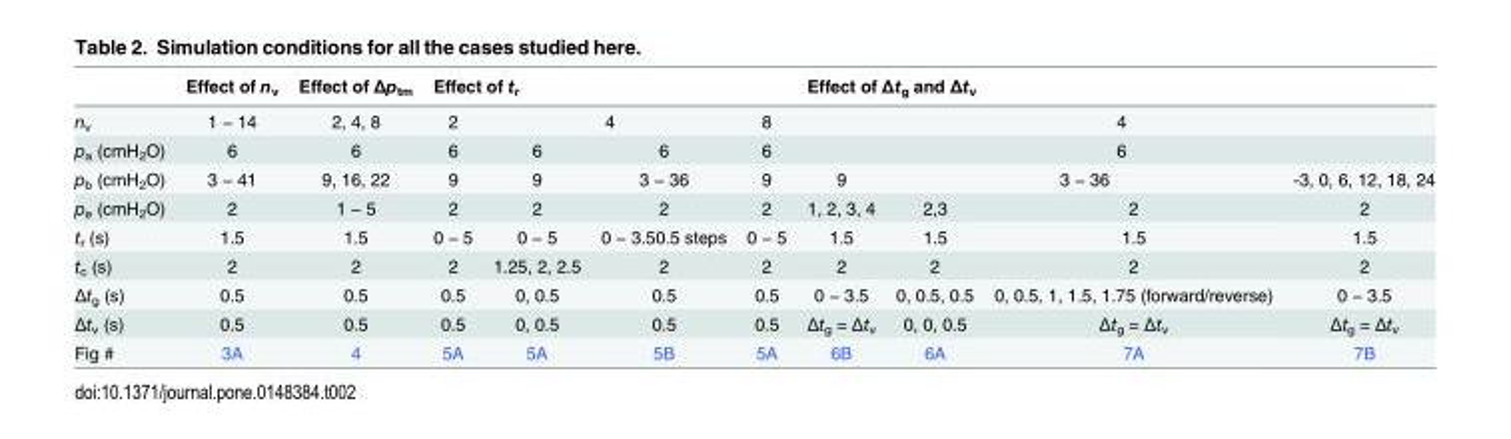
<table><thead><tr><td></td><td>Effect of n<sub>v</sub></td><td>Effect of Δp<sub>tm</sub></td><td colspan="4">Effect of t<sub>r</sub></td><td colspan="4">Effect of Δt<sub>g</sub> and Δt<sub>v</sub></td></tr></thead><tbody><tr><td>n<sub>v</sub></td><td>1 − 14</td><td>2, 4, 8</td><td>2</td><td colspan="2">4</td><td>8</td><td colspan="4">4</td></tr><tr><td>p<sub>a</sub> (cmH<sub>2</sub>O)</td><td>6</td><td>6</td><td>6</td><td>6</td><td>6</td><td>6</td><td colspan="4">6</td></tr><tr><td>p<sub>b</sub> (cmH<sub>2</sub>O)</td><td>3 − 41</td><td>9, 16, 22</td><td>9</td><td>9</td><td>3 − 36</td><td>9</td><td>9</td><td colspan="2">3 − 36</td><td>-3, 0, 6, 12, 18, 24</td></tr><tr><td>p<sub>e</sub> (cmH<sub>2</sub>O)</td><td>2</td><td>1 − 5</td><td>2</td><td>2</td><td>2</td><td>2</td><td>1, 2, 3, 4</td><td>2,3</td><td>2</td><td>2</td></tr><tr><td>t<sub>r</sub> (s)</td><td>1.5</td><td>1.5</td><td>0 − 5</td><td>0 − 5</td><td>0 − 3.50.5 steps</td><td>0 − 5</td><td>1.5</td><td>1.5</td><td>1.5</td><td>1.5</td></tr><tr><td>t<sub>c</sub> (s)</td><td>2</td><td>2</td><td>2</td><td>1.25, 2, 2.5</td><td>2</td><td>2</td><td>2</td><td>2</td><td>2</td><td>2</td></tr><tr><td>Δt<sub>g</sub> (s)</td><td>0.5</td><td>0.5</td><td>0.5</td><td>0, 0.5</td><td>0.5</td><td>0.5</td><td>0 − 3.5</td><td>0, 0.5, 0.5</td><td>0, 0.5, 1, 1.5, 1.75 (forward/reverse)</td><td>0 − 3.5</td></tr><tr><td>Δt<sub>v</sub> (s)</td><td>0.5</td><td>0.5</td><td>0.5</td><td>0, 0.5</td><td>0.5</td><td>0.5</td><td>Δt<sub>g</sub> = Δt<sub>v</sub></td><td>0, 0, 0.5</td><td>Δt<sub>g</sub> = Δt<sub>v</sub></td><td>Δt<sub>g</sub> = Δt<sub>v</sub></td></tr><tr><td>Fig #</td><td>3A</td><td>4</td><td>5A</td><td>5A</td><td>5B</td><td>5A</td><td>6B</td><td>6A</td><td>7A</td><td>7B</td></tr></tbody></table>